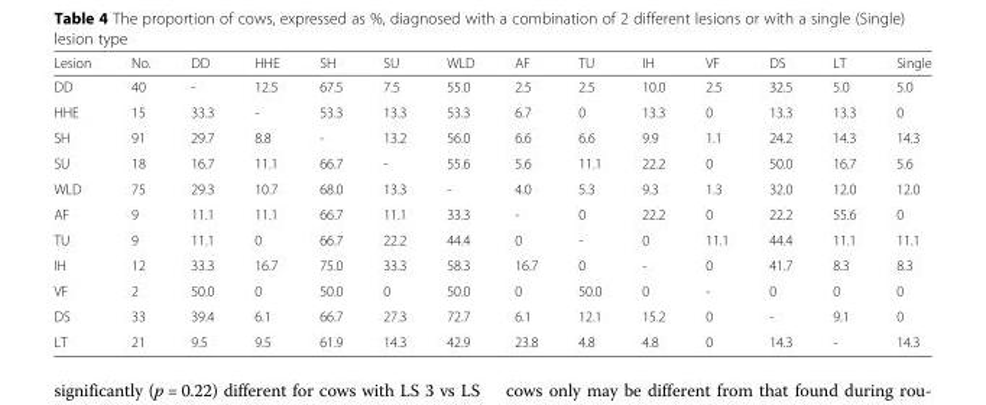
<table><thead><tr><td>Lesion</td><td>No.</td><td>DD</td><td>HHE</td><td>SH</td><td>SU</td><td>WLD</td><td>AF</td><td>TU</td><td>IH</td><td>VF</td><td>DS</td><td>LT</td><td>Single</td></tr></thead><tbody><tr><td>DD</td><td>40</td><td>-</td><td>12.5</td><td>67.5</td><td>7.5</td><td>55.0</td><td>2.5</td><td>2.5</td><td>10.0</td><td>2.5</td><td>32.5</td><td>5.0</td><td>5.0</td></tr><tr><td>HHE</td><td>15</td><td>33.3</td><td>-</td><td>53.3</td><td>13.3</td><td>53.3</td><td>6.7</td><td>0</td><td>13.3</td><td>0</td><td>13.3</td><td>13.3</td><td>0</td></tr><tr><td>SH</td><td>91</td><td>29.7</td><td>8.8</td><td>-</td><td>13.2</td><td>56.0</td><td>6.6</td><td>6.6</td><td>9.9</td><td>1.1</td><td>24.2</td><td>14.3</td><td>14.3</td></tr><tr><td>SU</td><td>18</td><td>16.7</td><td>11.1</td><td>66.7</td><td>-</td><td>55.6</td><td>5.6</td><td>11.1</td><td>22.2</td><td>0</td><td>50.0</td><td>16.7</td><td>5.6</td></tr><tr><td>WLD</td><td>75</td><td>29.3</td><td>10.7</td><td>68.0</td><td>13.3</td><td>-</td><td>4.0</td><td>5.3</td><td>9.3</td><td>1.3</td><td>32.0</td><td>12.0</td><td>12.0</td></tr><tr><td>AF</td><td>9</td><td>11.1</td><td>11.1</td><td>66.7</td><td>11.1</td><td>33.3</td><td>-</td><td>0</td><td>22.2</td><td>0</td><td>22.2</td><td>55.6</td><td>0</td></tr><tr><td>TU</td><td>9</td><td>11.1</td><td>0</td><td>66.7</td><td>22.2</td><td>44.4</td><td>0</td><td>-</td><td>0</td><td>11.1</td><td>44.4</td><td>11.1</td><td>11.1</td></tr><tr><td>IH</td><td>12</td><td>33.3</td><td>16.7</td><td>75.0</td><td>33.3</td><td>58.3</td><td>16.7</td><td>0</td><td>-</td><td>0</td><td>41.7</td><td>8.3</td><td>8.3</td></tr><tr><td>VF</td><td>2</td><td>50.0</td><td>0</td><td>50.0</td><td>0</td><td>50.0</td><td>0</td><td>50.0</td><td>0</td><td>-</td><td>0</td><td>0</td><td>0</td></tr><tr><td>DS</td><td>33</td><td>39.4</td><td>6.1</td><td>66.7</td><td>27.3</td><td>72.7</td><td>6.1</td><td>12.1</td><td>15.2</td><td>0</td><td>-</td><td>9.1</td><td>0</td></tr><tr><td>LT</td><td>21</td><td>9.5</td><td>9.5</td><td>61.9</td><td>14.3</td><td>42.9</td><td>23.8</td><td>4.8</td><td>4.8</td><td>0</td><td>14.3</td><td>-</td><td>14.3</td></tr></tbody></table>